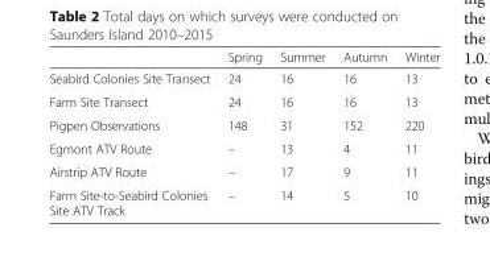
<table><thead><tr><td></td><td>Spring</td><td>Summer</td><td>Autumn</td><td>Winter</td></tr></thead><tbody><tr><td>Seabird Colonies Site Transect</td><td>24</td><td>16</td><td>16</td><td>13</td></tr><tr><td>Farm Site Transect</td><td>24</td><td>16</td><td>16</td><td>13</td></tr><tr><td>Pigpen Observations</td><td>148</td><td>31</td><td>152</td><td>220</td></tr><tr><td>Egmont ATV Route</td><td>–</td><td>13</td><td>4</td><td>11</td></tr><tr><td>Airstrip ATV Route</td><td>–</td><td>17</td><td>9</td><td>11</td></tr><tr><td>Farm Site-to-Seabird Colonies Site ATV Track</td><td>–</td><td>14</td><td>5</td><td>10</td></tr></tbody></table>